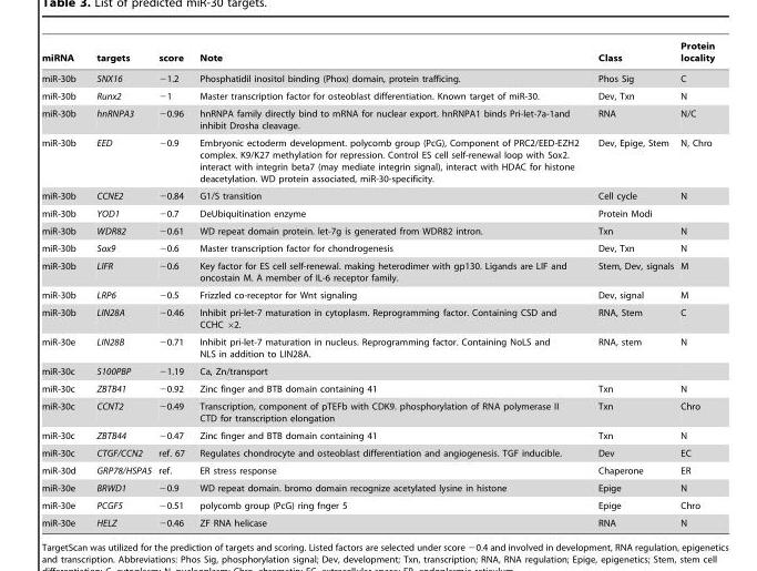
<table><thead><tr><td>miRNA</td><td>targets</td><td>score</td><td>Note</td><td>Class</td><td>Protein locality</td></tr></thead><tbody><tr><td>miR-30b</td><td>SNX16</td><td>−1.2</td><td>Phosphatidil inositol binding (Phox) domain, protein trafficing.</td><td>Phos Sig</td><td>C</td></tr><tr><td>miR-30b</td><td>Runx2</td><td>−1</td><td>Master transcription factor for osteoblast differentiation. Known target of miR-30.</td><td>Dev, Txn</td><td>N</td></tr><tr><td>miR-30b</td><td>hnRNPA3</td><td>−0.96</td><td>hnRNPA family directly bind to mRNA for nuclear export. hnRNPA1 binds Pri-let-7a-1and inhibit Drosha cleavage.</td><td>RNA</td><td>N/C</td></tr><tr><td>miR-30b</td><td>EED</td><td>−0.9</td><td>Embryonic ectoderm development. polycomb group (PcG), Component of PRC2/EED-EZH2 complex. K9/K27 methylation for repression. Control ES cell self-renewal loop with Sox2. interact with integrin beta7 (may mediate integrin signal), interact with HDAC for histone deacetylation. WD protein associated, miR-30-specificity.</td><td>Dev, Epige, Stem</td><td>N, Chro</td></tr><tr><td>miR-30b</td><td>CCNE2</td><td>−0.84</td><td>G1/S transition</td><td>Cell cycle</td><td>N</td></tr><tr><td>miR-30b</td><td>YOD1</td><td>−0.7</td><td>DeUbiquitination enzyme</td><td>Protein Modi</td><td></td></tr><tr><td>miR-30b</td><td>WDR82</td><td>−0.61</td><td>WD repeat domain protein. let-7g is generated from WDR82 intron.</td><td>Txn</td><td>N</td></tr><tr><td>miR-30b</td><td>Sox9</td><td>−0.6</td><td>Master transcription factor for chondrogenesis</td><td>Dev, Txn</td><td>N</td></tr><tr><td>miR-30b</td><td>LIFR</td><td>−0.6</td><td>Key factor for ES cell self-renewal. making heterodimer with gp130. Ligands are LIF and oncostain M. A member of IL-6 receptor family.</td><td>Stem, Dev, signals</td><td>M</td></tr><tr><td>miR-30b</td><td>LRP6</td><td>−0.5</td><td>Frizzled co-receptor for Wnt signaling</td><td>Dev, signal</td><td>M</td></tr><tr><td>miR-30b</td><td>LIN28A</td><td>−0.46</td><td>Inhibit pri-let-7 maturation in cytoplasm. Reprogramming factor. Containing CSD and CCHC ×2.</td><td>RNA, Stem</td><td>C</td></tr><tr><td>miR-30e</td><td>LIN28B</td><td>−0.71</td><td>Inhibit pri-let-7 maturation in nucleus. Reprogramming factor. Containing NoLS and NLS in addition to LIN28A.</td><td>RNA, stem</td><td>N</td></tr><tr><td>miR-30c</td><td>S100PBP</td><td>−1.19</td><td>Ca, Zn/transport</td><td></td><td></td></tr><tr><td>miR-30c</td><td>ZBTB41</td><td>−0.92</td><td>Zinc finger and BTB domain containing 41</td><td>Txn</td><td>N</td></tr><tr><td>miR-30c</td><td>CCNT2</td><td>−0.49</td><td>Transcription, component of pTEFb with CDK9. phosphorylation of RNA polymerase II CTD for transcription elongation</td><td>Txn</td><td>Chro</td></tr><tr><td>miR-30c</td><td>ZBTB44</td><td>−0.47</td><td>Zinc finger and BTB domain containing 41</td><td>Txn</td><td>N</td></tr><tr><td>miR-30c</td><td>CTGF/CCN2</td><td>ref. 67</td><td>Regulates chondrocyte and osteoblast differentiation and angiogenesis. TGF inducible.</td><td>Dev</td><td>EC</td></tr><tr><td>miR-30d</td><td>GRP78/HSPA5</td><td>ref.</td><td>ER stress response</td><td>Chaperone</td><td>ER</td></tr><tr><td>miR-30e</td><td>BRWD1</td><td>−0.9</td><td>WD repeat domain. bromo domain recognize acetylated lysine in histone</td><td>Epige</td><td>N</td></tr><tr><td>miR-30e</td><td>PCGF5</td><td>−0.51</td><td>polycomb group (PcG) ring fnger 5</td><td>Epige</td><td>Chro</td></tr><tr><td>miR-30e</td><td>HELZ</td><td>−0.46</td><td>ZF RNA helicase</td><td>RNA</td><td>N</td></tr></tbody></table>